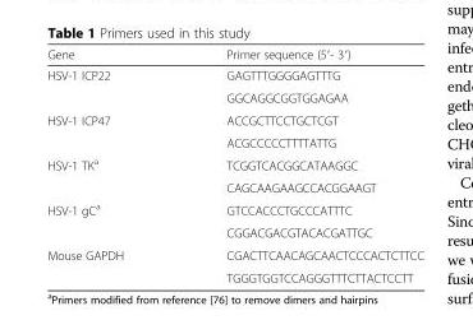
<table><thead><tr><td>Gene</td><td>Primer sequence (5′- 3′)</td></tr></thead><tbody><tr><td rowspan="2">HSV-1 ICP22</td><td>GAGTTTGGGGAGTTTG</td></tr><tr><td>GGCAGGCGGTGGAGAA</td></tr><tr><td rowspan="2">HSV-1 ICP47</td><td>ACCGCTTCCTGCTCGT</td></tr><tr><td>ACGCCCCCTTTTATTG</td></tr><tr><td rowspan="2">HSV-1 TK<sup>a</sup></td><td>TCGGTCACGGCATAAGGC</td></tr><tr><td>CAGCAAGAAGCCACGGAAGT</td></tr><tr><td rowspan="2">HSV-1 gC<sup>a</sup></td><td>GTCCACCCTGCCCATTTC</td></tr><tr><td>CGGACGACGTACACGATTGC</td></tr><tr><td rowspan="2">Mouse GAPDH</td><td>CGACTTCAACAGCAACTCCCACTCTTCC</td></tr><tr><td>TGGGTGGTCCAGGGTTTCTTACTCCTT</td></tr></tbody></table>